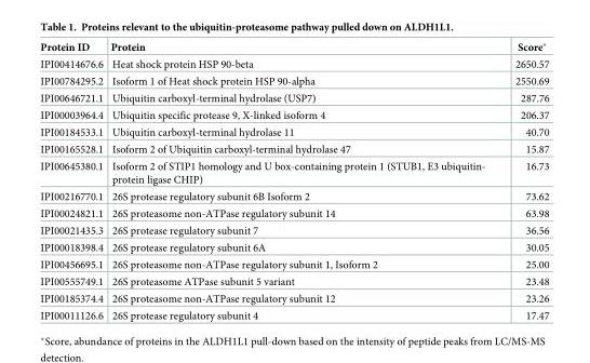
<table><thead><tr><td>Protein ID</td><td>Protein</td><td>Score*</td></tr></thead><tbody><tr><td>IPI00414676.6</td><td>Heat shock protein HSP 90-beta</td><td>2650.57</td></tr><tr><td>IPI00784295.2</td><td>Isoform 1 of Heat shock protein HSP 90-alpha</td><td>2550.69</td></tr><tr><td>IPI00646721.1</td><td>Ubiquitin carboxyl-terminal hydrolase (USP7)</td><td>287.76</td></tr><tr><td>IPI00003964.4</td><td>Ubiquitin specific protease 9, X-linked isoform 4</td><td>206.37</td></tr><tr><td>IPI00184533.1</td><td>Ubiquitin carboxyl-terminal hydrolase 11</td><td>40.70</td></tr><tr><td>IPI00165528.1</td><td>Isoform 2 of Ubiquitin carboxyl-terminal hydrolase 47</td><td>15.87</td></tr><tr><td>IPI00645380.1</td><td>Isoform 2 of STIP1 homology and U box-containing protein 1 (STUB1, E3 ubiquitin- protein ligase CHIP)</td><td>16.73</td></tr><tr><td>IPI00216770.1</td><td>26S protease regulatory subunit 6B Isoform 2</td><td>73.62</td></tr><tr><td>IPI00024821.1</td><td>26S proteasome non-ATPase regulatory subunit 14</td><td>63.98</td></tr><tr><td>IPI00021435.3</td><td>26S protease regulatory subunit 7</td><td>36.56</td></tr><tr><td>IPI00018398.4</td><td>26S protease regulatory subunit 6A</td><td>30.05</td></tr><tr><td>IPI00456695.1</td><td>26S proteasome non-ATPase regulatory subunit 1, Isoform 2</td><td>25.00</td></tr><tr><td>IPI00555749.1</td><td>26S proteasome ATPase subunit 5 variant</td><td>23.48</td></tr><tr><td>IPI00185374.4</td><td>26S proteasome non-ATPase regulatory subunit 12</td><td>23.26</td></tr><tr><td>IPI00011126.6</td><td>26S protease regulatory subunit 4</td><td>17.47</td></tr></tbody></table>